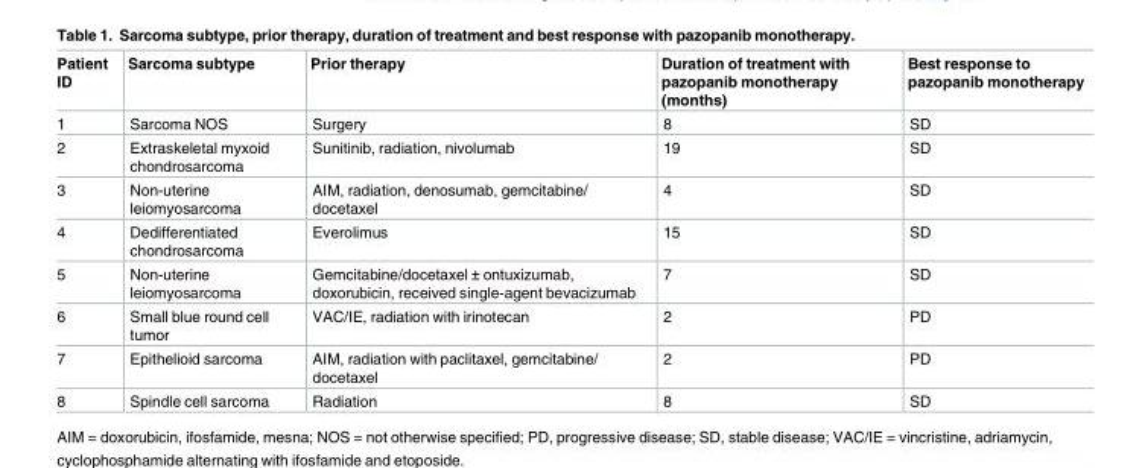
<table><thead><tr><td>Patient ID</td><td>Sarcoma subtype</td><td>Prior therapy</td><td>Duration of treatment with pazopanib monotherapy (months)</td><td>Best response to pazopanib monotherapy</td></tr></thead><tbody><tr><td>1</td><td>Sarcoma NOS</td><td>Surgery</td><td>8</td><td>SD</td></tr><tr><td>2</td><td>Extraskeletal myxoid chondrosarcoma</td><td>Sunitinib, radiation, nivolumab</td><td>19</td><td>SD</td></tr><tr><td>3</td><td>Non-uterine leiomyosarcoma</td><td>AIM, radiation, denosumab, gemcitabine/ docetaxel</td><td>4</td><td>SD</td></tr><tr><td>4</td><td>Dedifferentiated chondrosarcoma</td><td>Everolimus</td><td>15</td><td>SD</td></tr><tr><td>5</td><td>Non-uterine leiomyosarcoma</td><td>Gemcitabine/docetaxel ± ontuxizumab, doxorubicin, received single-agent bevacizumab</td><td>7</td><td>SD</td></tr><tr><td>6</td><td>Small blue round cell tumor</td><td>VAC/IE, radiation with irinotecan</td><td>2</td><td>PD</td></tr><tr><td>7</td><td>Epithelioid sarcoma</td><td>AIM, radiation with paclitaxel, gemcitabine/ docetaxel</td><td>2</td><td>PD</td></tr><tr><td>8</td><td>Spindle cell sarcoma</td><td>Radiation</td><td>8</td><td>SD</td></tr></tbody></table>